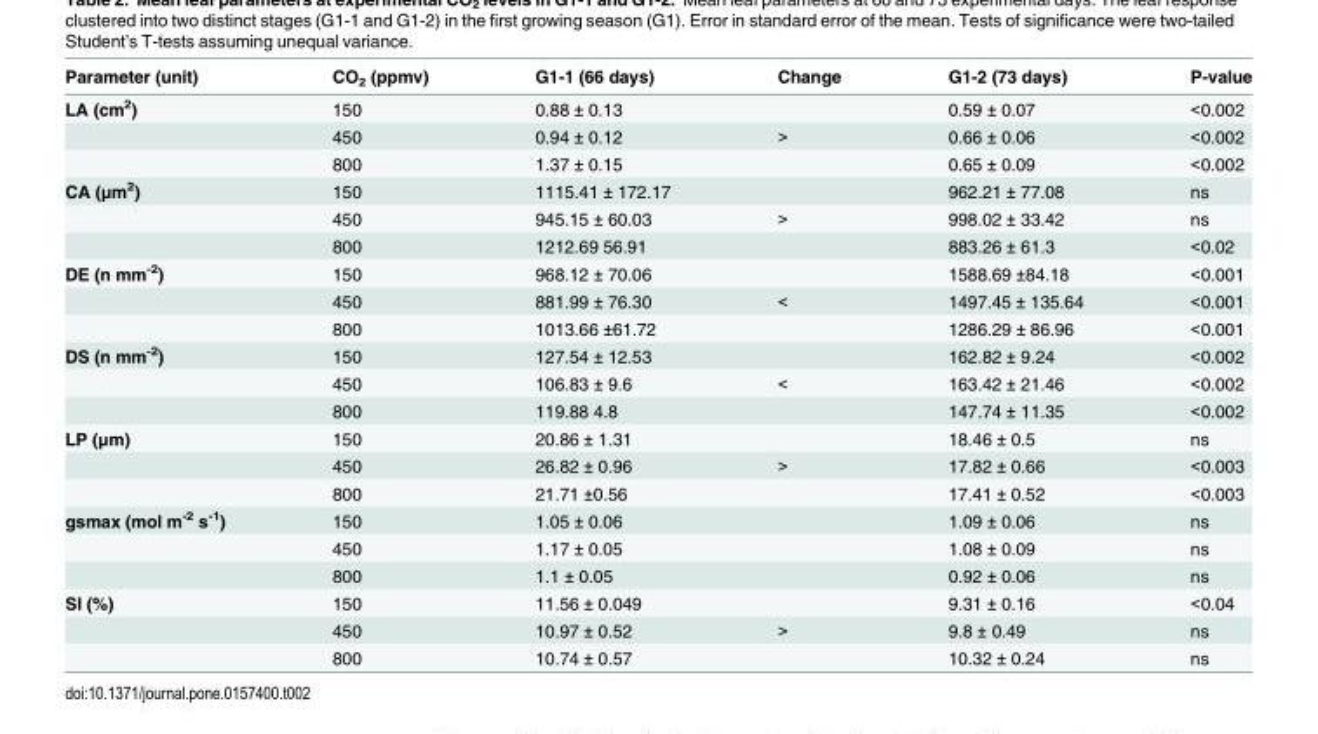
<table><thead><tr><td>Parameter (unit)</td><td>CO<sub>2</sub> (ppmv)</td><td>G1-1 (66 days)</td><td>Change</td><td>G1-2 (73 days)</td><td>P-value</td></tr></thead><tbody><tr><td rowspan="3">LA (cm<sup>2</sup>)</td><td>150</td><td>0.88 ± 0.13</td><td></td><td>0.59 ± 0.07</td><td>&lt;0.002</td></tr><tr><td>450</td><td>0.94 ± 0.12</td><td>&gt;</td><td>0.66 ± 0.06</td><td>&lt;0.002</td></tr><tr><td>800</td><td>1.37 ± 0.15</td><td></td><td>0.65 ± 0.09</td><td>&lt;0.002</td></tr><tr><td rowspan="3">CA (μm<sup>2</sup>)</td><td>150</td><td>1115.41 ± 172.17</td><td></td><td>962.21 ± 77.08</td><td>ns</td></tr><tr><td>450</td><td>945.15 ± 60.03</td><td>&gt;</td><td>998.02 ± 33.42</td><td>ns</td></tr><tr><td>800</td><td>1212.69 56.91</td><td></td><td>883.26 ± 61.3</td><td>&lt;0.02</td></tr><tr><td rowspan="3">DE (n mm<sup>-2</sup>)</td><td>150</td><td>968.12 ± 70.06</td><td></td><td>1588.69 ±84.18</td><td>&lt;0.001</td></tr><tr><td>450</td><td>881.99 ± 76.30</td><td>&lt;</td><td>1497.45 ± 135.64</td><td>&lt;0.001</td></tr><tr><td>800</td><td>1013.66 ±61.72</td><td></td><td>1286.29 ± 86.96</td><td>&lt;0.001</td></tr><tr><td rowspan="3">DS (n mm<sup>-2</sup>)</td><td>150</td><td>127.54 ± 12.53</td><td></td><td>162.82 ± 9.24</td><td>&lt;0.002</td></tr><tr><td>450</td><td>106.83 ± 9.6</td><td>&lt;</td><td>163.42 ± 21.46</td><td>&lt;0.002</td></tr><tr><td>800</td><td>119.88 4.8</td><td></td><td>147.74 ± 11.35</td><td>&lt;0.002</td></tr><tr><td rowspan="3">LP (μm)</td><td>150</td><td>20.86 ± 1.31</td><td></td><td>18.46 ± 0.5</td><td>ns</td></tr><tr><td>450</td><td>26.82 ± 0.96</td><td>&gt;</td><td>17.82 ± 0.66</td><td>&lt;0.003</td></tr><tr><td>800</td><td>21.71 ±0.56</td><td></td><td>17.41 ± 0.52</td><td>&lt;0.003</td></tr><tr><td rowspan="3">gsmax (mol m<sup>-2</sup> s<sup>-1</sup>)</td><td>150</td><td>1.05 ± 0.06</td><td></td><td>1.09 ± 0.06</td><td>ns</td></tr><tr><td>450</td><td>1.17 ± 0.05</td><td></td><td>1.08 ± 0.09</td><td>ns</td></tr><tr><td>800</td><td>1.1 ± 0.05</td><td></td><td>0.92 ± 0.06</td><td>ns</td></tr><tr><td rowspan="3">SI (%)</td><td>150</td><td>11.56 ± 0.049</td><td></td><td>9.31 ± 0.16</td><td>&lt;0.04</td></tr><tr><td>450</td><td>10.97 ± 0.52</td><td>&gt;</td><td>9.8 ± 0.49</td><td>ns</td></tr><tr><td>800</td><td>10.74 ± 0.57</td><td></td><td>10.32 ± 0.24</td><td>ns</td></tr></tbody></table>